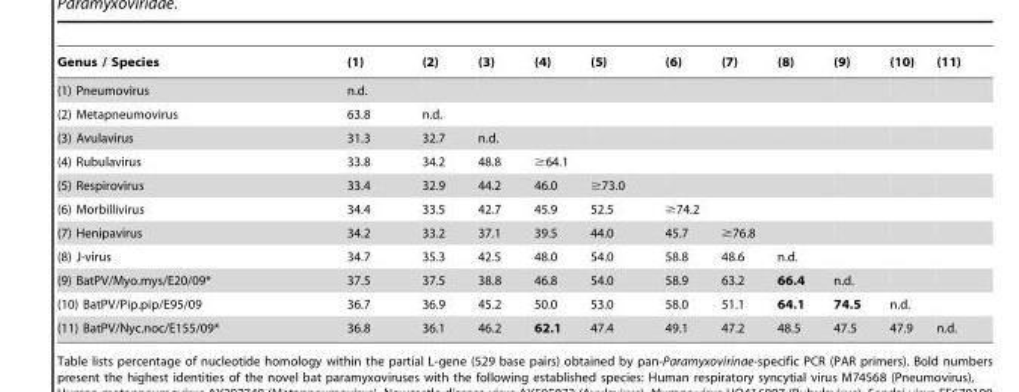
<table><thead><tr><td>Genus / Species</td><td>(1)</td><td>(2)</td><td>(3)</td><td>(4)</td><td>(5)</td><td>(6)</td><td>(7)</td><td>(8)</td><td>(9)</td><td>(10)</td><td>(11)</td></tr></thead><tbody><tr><td>(1) Pneumovirus</td><td>n.d.</td><td></td><td></td><td></td><td></td><td></td><td></td><td></td><td></td><td></td><td></td></tr><tr><td>(2) Metapneumovirus</td><td>63.8</td><td>n.d.</td><td></td><td></td><td></td><td></td><td></td><td></td><td></td><td></td><td></td></tr><tr><td>(3) Avulavirus</td><td>31.3</td><td>32.7</td><td>n.d.</td><td></td><td></td><td></td><td></td><td></td><td></td><td></td><td></td></tr><tr><td>(4) Rubulavirus</td><td>33.8</td><td>34.2</td><td>48.8</td><td>≥64.1</td><td></td><td></td><td></td><td></td><td></td><td></td><td></td></tr><tr><td>(5) Respirovirus</td><td>33.4</td><td>32.9</td><td>44.2</td><td>46.0</td><td>≥73.0</td><td></td><td></td><td></td><td></td><td></td><td></td></tr><tr><td>(6) Morbillivirus</td><td>34.4</td><td>33.5</td><td>42.7</td><td>45.9</td><td>52.5</td><td>≥74.2</td><td></td><td></td><td></td><td></td><td></td></tr><tr><td>(7) Henipavirus</td><td>34.2</td><td>33.2</td><td>37.1</td><td>39.5</td><td>44.0</td><td>45.7</td><td>≥76.8</td><td></td><td></td><td></td><td></td></tr><tr><td>(8) J-virus</td><td>34.7</td><td>35.3</td><td>42.5</td><td>48.0</td><td>54.0</td><td>58.8</td><td>48.6</td><td>n.d.</td><td></td><td></td><td></td></tr><tr><td>(9) BatPV/Myo.mys/E20/09*</td><td>37.5</td><td>37.5</td><td>38.8</td><td>46.8</td><td>54.0</td><td>58.9</td><td>63.2</td><td>66.4</td><td>n.d.</td><td></td><td></td></tr><tr><td>(10) BatPV/Pip.pip/E95/09</td><td>36.7</td><td>36.9</td><td>45.2</td><td>50.0</td><td>53.0</td><td>58.0</td><td>51.1</td><td>64.1</td><td>74.5</td><td>n.d.</td><td></td></tr><tr><td>(11) BatPV/Nyc.noc/E155/09*</td><td>36.8</td><td>36.1</td><td>46.2</td><td>62.1</td><td>47.4</td><td>49.1</td><td>47.2</td><td>48.5</td><td>47.5</td><td>47.9</td><td>n.d.</td></tr></tbody></table>